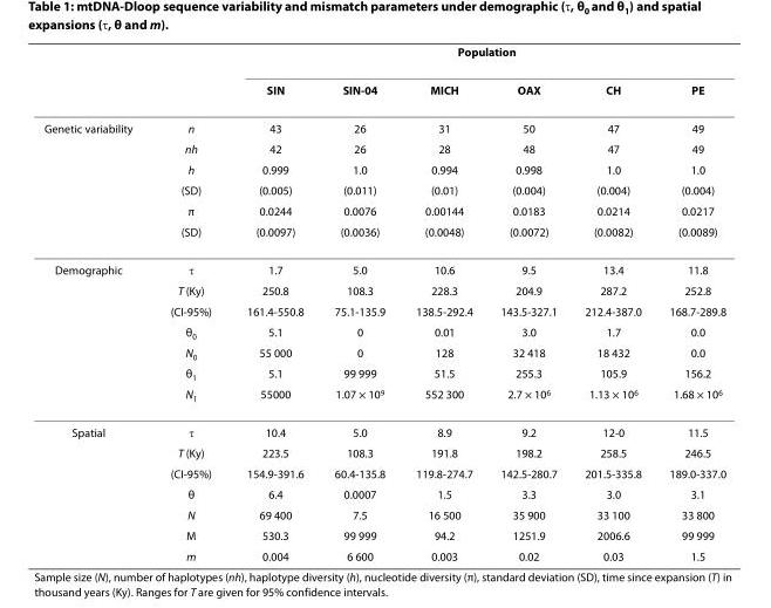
<table><thead><tr><td rowspan="2"></td><td rowspan="2"></td><td colspan="6">Population</td></tr><tr><td>SIN</td><td>SIN-04</td><td>MICH</td><td>OAX</td><td>CH</td><td>PE</td></tr></thead><tbody><tr><td rowspan="6">Genetic variability</td><td>n</td><td>43</td><td>26</td><td>31</td><td>50</td><td>47</td><td>49</td></tr><tr><td>nh</td><td>42</td><td>26</td><td>28</td><td>48</td><td>47</td><td>49</td></tr><tr><td>h</td><td>0.999</td><td>1.0</td><td>0.994</td><td>0.998</td><td>1.0</td><td>1.0</td></tr><tr><td>(SD)</td><td>(0.005)</td><td>(0.011)</td><td>(0.01)</td><td>(0.004)</td><td>(0.004)</td><td>(0.004)</td></tr><tr><td>π</td><td>0.0244</td><td>0.0076</td><td>0.00144</td><td>0.0183</td><td>0.0214</td><td>0.0217</td></tr><tr><td>(SD)</td><td>(0.0097)</td><td>(0.0036)</td><td>(0.0048)</td><td>(0.0072)</td><td>(0.0082)</td><td>(0.0089)</td></tr><tr><td rowspan="7">Demographic</td><td>τ</td><td>1.7</td><td>5.0</td><td>10.6</td><td>9.5</td><td>13.4</td><td>11.8</td></tr><tr><td>T (Ky)</td><td>250.8</td><td>108.3</td><td>228.3</td><td>204.9</td><td>287.2</td><td>252.8</td></tr><tr><td>(CI-95%)</td><td>161.4-550.8</td><td>75.1-135.9</td><td>138.5-292.4</td><td>143.5-327.1</td><td>212.4-387.0</td><td>168.7-289.8</td></tr><tr><td>θ<sub>0</sub></td><td>5.1</td><td>0</td><td>0.01</td><td>3.0</td><td>1.7</td><td>0.0</td></tr><tr><td>N<sub>0</sub></td><td>55 000</td><td>0</td><td>128</td><td>32 418</td><td>18 432</td><td>0.0</td></tr><tr><td>θ<sub>1</sub></td><td>5.1</td><td>99 999</td><td>51.5</td><td>255.3</td><td>105.9</td><td>156.2</td></tr><tr><td>N<sub>1</sub></td><td>55000</td><td>1.07 × 10<sup>9</sup></td><td>552 300</td><td>2.7 × 10<sup>6</sup></td><td>1.13 × 10<sup>6</sup></td><td>1.68 × 10<sup>6</sup></td></tr><tr><td rowspan="7">Spatial</td><td>τ</td><td>10.4</td><td>5.0</td><td>8.9</td><td>9.2</td><td>12-0</td><td>11.5</td></tr><tr><td>T (Ky)</td><td>223.5</td><td>108.3</td><td>191.8</td><td>198.2</td><td>258.5</td><td>246.5</td></tr><tr><td>(CI-95%)</td><td>154.9-391.6</td><td>60.4-135.8</td><td>119.8-274.7</td><td>142.5-280.7</td><td>201.5-335.8</td><td>189.0-337.0</td></tr><tr><td>θ</td><td>6.4</td><td>0.0007</td><td>1.5</td><td>3.3</td><td>3.0</td><td>3.1</td></tr><tr><td>N</td><td>69 400</td><td>7.5</td><td>16 500</td><td>35 900</td><td>33 100</td><td>33 800</td></tr><tr><td>M</td><td>530.3</td><td>99 999</td><td>94.2</td><td>1251.9</td><td>2006.6</td><td>99 999</td></tr><tr><td>m</td><td>0.004</td><td>6 600</td><td>0.003</td><td>0.02</td><td>0.03</td><td>1.5</td></tr></tbody></table>